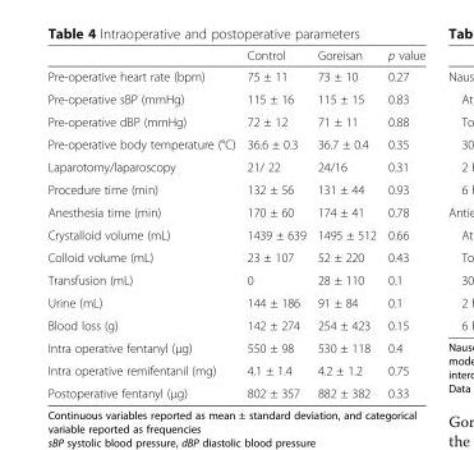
<table><thead><tr><td></td><td>Control</td><td>Goreisan</td><td>p value</td></tr></thead><tbody><tr><td>Pre-operative heart rate (bpm)</td><td>75 ± 11</td><td>73 ± 10</td><td>0.27</td></tr><tr><td>Pre-operative sBP (mmHg)</td><td>115 ± 16</td><td>115 ± 15</td><td>0.83</td></tr><tr><td>Pre-operative dBP (mmHg)</td><td>72 ± 12</td><td>71 ± 11</td><td>0.88</td></tr><tr><td>Pre-operative body temperature (°C)</td><td>36.6 ± 0.3</td><td>36.7 ± 0.4</td><td>0.35</td></tr><tr><td>Laparotomy/laparoscopy</td><td>21/ 22</td><td>24/16</td><td>0.31</td></tr><tr><td>Procedure time (min)</td><td>132 ± 56</td><td>131 ± 44</td><td>0.93</td></tr><tr><td>Anesthesia time (min)</td><td>170 ± 60</td><td>174 ± 41</td><td>0.78</td></tr><tr><td>Crystalloid volume (mL)</td><td>1439 ± 639</td><td>1495 ± 512</td><td>0.66</td></tr><tr><td>Colloid volume (mL)</td><td>23 ± 107</td><td>52 ± 220</td><td>0.43</td></tr><tr><td>Transfusion (mL)</td><td>0</td><td>28 ± 110</td><td>0.1</td></tr><tr><td>Urine (mL)</td><td>144 ± 186</td><td>91 ± 84</td><td>0.1</td></tr><tr><td>Blood loss (g)</td><td>142 ± 274</td><td>254 ± 423</td><td>0.15</td></tr><tr><td>Intra operative fentanyl (μg)</td><td>550 ± 98</td><td>530 ± 118</td><td>0.4</td></tr><tr><td>Intra operative remifentanil (mg)</td><td>4.1 ± 1.4</td><td>4.2 ± 1.2</td><td>0.75</td></tr><tr><td>Postoperative fentanyl (μg)</td><td>802 ± 357</td><td>882 ± 382</td><td>0.33</td></tr></tbody></table>